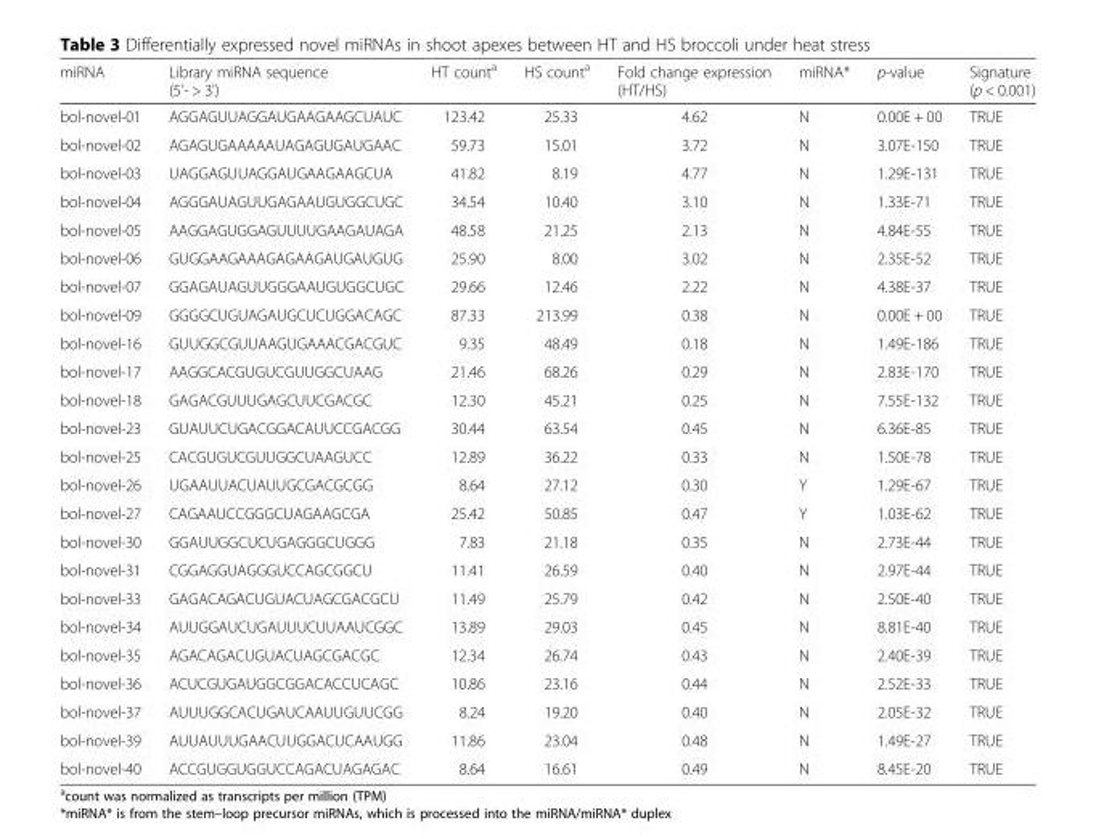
<table><thead><tr><td>miRNA</td><td>Library miRNA sequence (5&#x27;- &gt; 3&#x27;)</td><td>HT count<sup>a</sup></td><td>HS count<sup>a</sup></td><td>Fold change expression (HT/HS)</td><td>miRNA*</td><td>p-value</td><td>Signature (p &lt; 0.001)</td></tr></thead><tbody><tr><td>bol-novel-01</td><td>AGGAGUUAGGAUGAAGAAGCUAUC</td><td>123.42</td><td>25.33</td><td>4.62</td><td>N</td><td>0.00E + 00</td><td>TRUE</td></tr><tr><td>bol-novel-02</td><td>AGAGUGAAAAAUAGAGUGAUGAAC</td><td>59.73</td><td>15.01</td><td>3.72</td><td>N</td><td>3.07E-150</td><td>TRUE</td></tr><tr><td>bol-novel-03</td><td>UAGGAGUUAGGAUGAAGAAGCUA</td><td>41.82</td><td>8.19</td><td>4.77</td><td>N</td><td>1.29E-131</td><td>TRUE</td></tr><tr><td>bol-novel-04</td><td>AGGGAUAGUUGAGAAUGUGGCUGC</td><td>34.54</td><td>10.40</td><td>3.10</td><td>N</td><td>1.33E-71</td><td>TRUE</td></tr><tr><td>bol-novel-05</td><td>AAGGAGUGGAGUUUUGAAGAUAGA</td><td>48.58</td><td>21.25</td><td>2.13</td><td>N</td><td>4.84E-55</td><td>TRUE</td></tr><tr><td>bol-novel-06</td><td>GUGGAAGAAAGAGAAGAUGAUGUG</td><td>25.90</td><td>8.00</td><td>3.02</td><td>N</td><td>2.35E-52</td><td>TRUE</td></tr><tr><td>bol-novel-07</td><td>GGAGAUAGUUGGGAAUGUGGCUGC</td><td>29.66</td><td>12.46</td><td>2.22</td><td>N</td><td>4.38E-37</td><td>TRUE</td></tr><tr><td>bol-novel-09</td><td>GGGGCUGUAGAUGCUCUGGACAGC</td><td>87.33</td><td>213.99</td><td>0.38</td><td>N</td><td>0.00E + 00</td><td>TRUE</td></tr><tr><td>bol-novel-16</td><td>GUUGGCGUUAAGUGAAACGACGUC</td><td>9.35</td><td>48.49</td><td>0.18</td><td>N</td><td>1.49E-186</td><td>TRUE</td></tr><tr><td>bol-novel-17</td><td>AAGGCACGUGUCGUUGGCUAAG</td><td>21.46</td><td>68.26</td><td>0.29</td><td>N</td><td>2.83E-170</td><td>TRUE</td></tr><tr><td>bol-novel-18</td><td>GAGACGUUUGAGCUUCGACGC</td><td>12.30</td><td>45.21</td><td>0.25</td><td>N</td><td>7.55E-132</td><td>TRUE</td></tr><tr><td>bol-novel-23</td><td>GUAUUCUGACGGACAUUCCGACGG</td><td>30.44</td><td>63.54</td><td>0.45</td><td>N</td><td>6.36E-85</td><td>TRUE</td></tr><tr><td>bol-novel-25</td><td>CACGUGUCGUUGGCUAAGUCC</td><td>12.89</td><td>36.22</td><td>0.33</td><td>N</td><td>1.50E-78</td><td>TRUE</td></tr><tr><td>bol-novel-26</td><td>UGAAUUACUAUUGCGACGCGG</td><td>8.64</td><td>27.12</td><td>0.30</td><td>Y</td><td>1.29E-67</td><td>TRUE</td></tr><tr><td>bol-novel-27</td><td>CAGAAUCCGGGCUAGAAGCGA</td><td>25.42</td><td>50.85</td><td>0.47</td><td>Y</td><td>1.03E-62</td><td>TRUE</td></tr><tr><td>bol-novel-30</td><td>GGAUUGGCUCUGAGGGCUGGG</td><td>7.83</td><td>21.18</td><td>0.35</td><td>N</td><td>2.73E-44</td><td>TRUE</td></tr><tr><td>bol-novel-31</td><td>CGGAGGUAGGGUCCAGCGGCU</td><td>11.41</td><td>26.59</td><td>0.40</td><td>N</td><td>2.97E-44</td><td>TRUE</td></tr><tr><td>bol-novel-33</td><td>GAGACAGACUGUACUAGCGACGCU</td><td>11.49</td><td>25.79</td><td>0.42</td><td>N</td><td>2.50E-40</td><td>TRUE</td></tr><tr><td>bol-novel-34</td><td>AUUGGAUCUGAUUUCUUAAUCGGC</td><td>13.89</td><td>29.03</td><td>0.45</td><td>N</td><td>8.81E-40</td><td>TRUE</td></tr><tr><td>bol-novel-35</td><td>AGACAGACUGUACUAGCGACGC</td><td>12.34</td><td>26.74</td><td>0.43</td><td>N</td><td>2.40E-39</td><td>TRUE</td></tr><tr><td>bol-novel-36</td><td>ACUCGUGAUGGCGGACACCUCAGC</td><td>10.86</td><td>23.16</td><td>0.44</td><td>N</td><td>2.52E-33</td><td>TRUE</td></tr><tr><td>bol-novel-37</td><td>AUUUGGCACUGAUCAAUUGUUCGG</td><td>8.24</td><td>19.20</td><td>0.40</td><td>N</td><td>2.05E-32</td><td>TRUE</td></tr><tr><td>bol-novel-39</td><td>AUUAUUUGAACUUGGACUCAAUGG</td><td>11.86</td><td>23.04</td><td>0.48</td><td>N</td><td>1.49E-27</td><td>TRUE</td></tr><tr><td>bol-novel-40</td><td>ACCGUGGUGGUCCAGACUAGAGAC</td><td>8.64</td><td>16.61</td><td>0.49</td><td>N</td><td>8.45E-20</td><td>TRUE</td></tr></tbody></table>